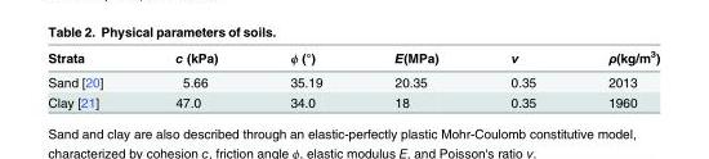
<table><thead><tr><td>Strata</td><td>c (kPa)</td><td>ϕ (°)</td><td>E(MPa)</td><td>ν</td><td>ρ(kg/m<sup>3</sup>)</td></tr></thead><tbody><tr><td>Sand [20]</td><td>5.66</td><td>35.19</td><td>20.35</td><td>0.35</td><td>2013</td></tr><tr><td>Clay [21]</td><td>47.0</td><td>34.0</td><td>18</td><td>0.35</td><td>1960</td></tr></tbody></table>